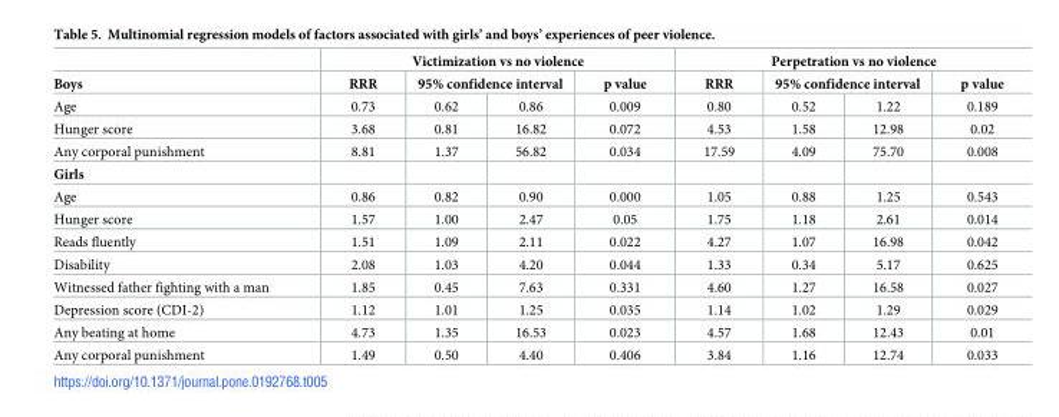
<table><thead><tr><td rowspan="3">Boys Age</td><td colspan="4">Victimization vs no violence</td><td colspan="4">Perpetration vs no violence</td></tr><tr><td rowspan="2">RRR 0.73</td><td colspan="2">95% confidence interval</td><td rowspan="2">p value 0.009</td><td rowspan="2">RRR 0.80</td><td colspan="2">95% confidence interval</td><td rowspan="2">p value 0.189</td></tr><tr><td>0.62</td><td>0.86</td><td>0.52</td><td>1.22</td></tr></thead><tbody><tr><td>Hunger score</td><td>3.68</td><td>0.81</td><td>16.82</td><td>0.072</td><td>4.53</td><td>1.58</td><td>12.98</td><td>0.02</td></tr><tr><td>Any corporal punishment</td><td>8.81</td><td>1.37</td><td>56.82</td><td>0.034</td><td>17.59</td><td>4.09</td><td>75.70</td><td>0.008</td></tr><tr><td colspan="9">Girls</td></tr><tr><td>Age</td><td>0.86</td><td>0.82</td><td>0.90</td><td>0.000</td><td>1.05</td><td>0.88</td><td>1.25</td><td>0.543</td></tr><tr><td>Hunger score</td><td>1.57</td><td>1.00</td><td>2.47</td><td>0.05</td><td>1.75</td><td>1.18</td><td>2.61</td><td>0.014</td></tr><tr><td>Reads fluently</td><td>1.51</td><td>1.09</td><td>2.11</td><td>0.022</td><td>4.27</td><td>1.07</td><td>16.98</td><td>0.042</td></tr><tr><td>Disability</td><td>2.08</td><td>1.03</td><td>4.20</td><td>0.044</td><td>1.33</td><td>0.34</td><td>5.17</td><td>0.625</td></tr><tr><td>Witnessed father fighting with a man</td><td>1.85</td><td>0.45</td><td>7.63</td><td>0.331</td><td>4.60</td><td>1.27</td><td>16.58</td><td>0.027</td></tr><tr><td>Depression score (CDI-2)</td><td>1.12</td><td>1.01</td><td>1.25</td><td>0.035</td><td>1.14</td><td>1.02</td><td>1.29</td><td>0.029</td></tr><tr><td>Any beating at home</td><td>4.73</td><td>1.35</td><td>16.53</td><td>0.023</td><td>4.57</td><td>1.68</td><td>12.43</td><td>0.01</td></tr><tr><td>Any corporal punishment</td><td>1.49</td><td>0.50</td><td>4.40</td><td>0.406</td><td>3.84</td><td>1.16</td><td>12.74</td><td>0.033</td></tr></tbody></table>